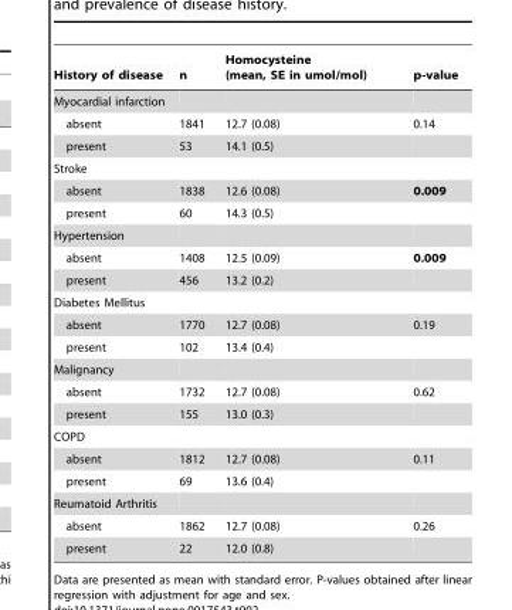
<table><thead><tr><td>History of disease</td><td>n</td><td>Homocysteine (mean, SE in umol/mol)</td><td>p-value</td></tr></thead><tbody><tr><td colspan="4">Myocardial infarction</td></tr><tr><td>absent</td><td>1841</td><td>12.7 (0.08)</td><td>0.14</td></tr><tr><td>present</td><td>53</td><td>14.1 (0.5)</td><td></td></tr><tr><td colspan="4">Stroke</td></tr><tr><td>absent</td><td>1838</td><td>12.6 (0.08)</td><td>0.009</td></tr><tr><td>present</td><td>60</td><td>14.3 (0.5)</td><td></td></tr><tr><td colspan="4">Hypertension</td></tr><tr><td>absent</td><td>1408</td><td>12.5 (0.09)</td><td>0.009</td></tr><tr><td>present</td><td>456</td><td>13.2 (0.2)</td><td></td></tr><tr><td colspan="4">Diabetes Mellitus</td></tr><tr><td>absent</td><td>1770</td><td>12.7 (0.08)</td><td>0.19</td></tr><tr><td>present</td><td>102</td><td>13.4 (0.4)</td><td></td></tr><tr><td colspan="4">Malignancy</td></tr><tr><td>absent</td><td>1732</td><td>12.7 (0.08)</td><td>0.62</td></tr><tr><td>present</td><td>155</td><td>13.0 (0.3)</td><td></td></tr><tr><td colspan="4">COPD</td></tr><tr><td>absent</td><td>1812</td><td>12.7 (0.08)</td><td>0.11</td></tr><tr><td>present</td><td>69</td><td>13.6 (0.4)</td><td></td></tr><tr><td colspan="4">Reumatoid Arthritis</td></tr><tr><td>absent</td><td>1862</td><td>12.7 (0.08)</td><td>0.26</td></tr><tr><td>present</td><td>22</td><td>12.0 (0.8)</td><td></td></tr></tbody></table>